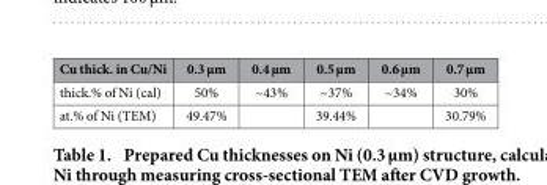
<table><thead><tr><td>Cu thick. in Cu/Ni</td><td>0.3 μm</td><td>0.4 μm</td><td>0.5 μm</td><td>0.6 μm</td><td>0.7 μm</td></tr></thead><tbody><tr><td>thick.% of Ni (cal)</td><td>50%</td><td>~43%</td><td>~37%</td><td>~34%</td><td>30%</td></tr><tr><td>at.% of Ni (TEM)</td><td>49.47%</td><td></td><td>39.44%</td><td></td><td>30.79%</td></tr></tbody></table>